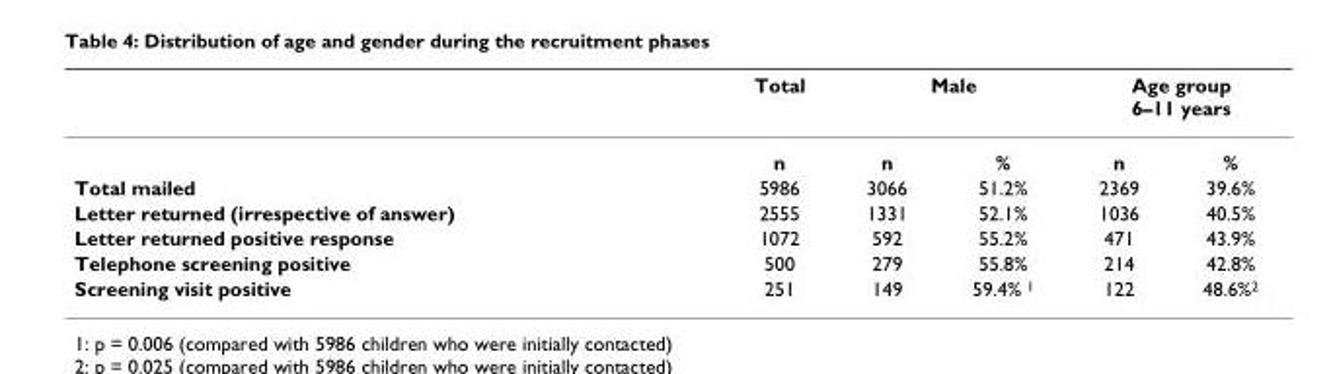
<table><thead><tr><td rowspan="2"></td><td rowspan="2">Total n</td><td colspan="2">Male</td><td colspan="2">Age group 6–11 years</td></tr><tr><td>n</td><td>%</td><td>n</td><td>%</td></tr></thead><tbody><tr><td>Total mailed</td><td>5986</td><td>3066</td><td>51.2%</td><td>2369</td><td>39.6%</td></tr><tr><td>Letter returned (irrespective of answer)</td><td>2555</td><td>1331</td><td>52.1%</td><td>1036</td><td>40.5%</td></tr><tr><td>Letter returned positive response</td><td>1072</td><td>592</td><td>55.2%</td><td>471</td><td>43.9%</td></tr><tr><td>Telephone screening positive</td><td>500</td><td>279</td><td>55.8%</td><td>214</td><td>42.8%</td></tr><tr><td>Screening visit positive</td><td>251</td><td>149</td><td>59.4% <sup>1</sup></td><td>122</td><td>48.6%<sup>2</sup></td></tr></tbody></table>